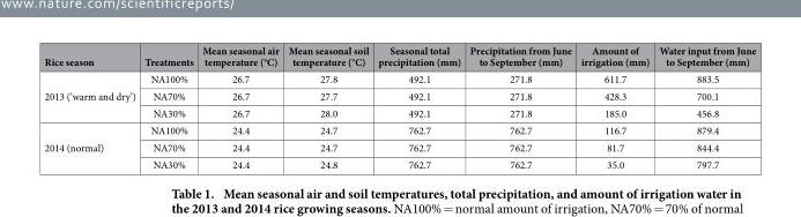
<table><thead><tr><td>Rice season</td><td>Treatments</td><td>Mean seasonal air temperature (°C)</td><td>Mean seasonal soil temperature (°C)</td><td>Seasonal total precipitation (mm)</td><td>Precipitation from June to September (mm)</td><td>Amount of irrigation (mm)</td><td>Water input from June to September (mm)</td></tr></thead><tbody><tr><td rowspan="3">2013 (‘warm and dry’)</td><td>NA100%</td><td>26.7</td><td>27.8</td><td>492.1</td><td>271.8</td><td>611.7</td><td>883.5</td></tr><tr><td>NA70%</td><td>26.7</td><td>27.7</td><td>492.1</td><td>271.8</td><td>428.3</td><td>700.1</td></tr><tr><td>NA30%</td><td>26.7</td><td>28.0</td><td>492.1</td><td>271.8</td><td>185.0</td><td>456.8</td></tr><tr><td rowspan="3">2014 (normal)</td><td>NA100%</td><td>24.4</td><td>24.7</td><td>762.7</td><td>762.7</td><td>116.7</td><td>879.4</td></tr><tr><td>NA70%</td><td>24.4</td><td>24.7</td><td>762.7</td><td>762.7</td><td>81.7</td><td>844.4</td></tr><tr><td>NA30%</td><td>24.4</td><td>24.8</td><td>762.7</td><td>762.7</td><td>35.0</td><td>797.7</td></tr></tbody></table>